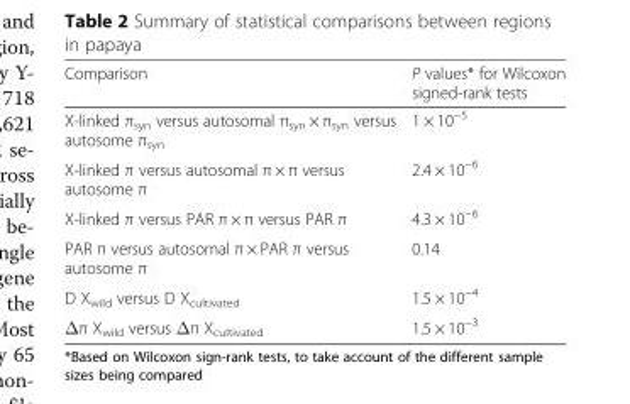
<table><thead><tr><td>Comparison</td><td>P values* for Wilcoxon signed-rank tests</td></tr></thead><tbody><tr><td>X-linked π<sub>syn</sub> versus autosomal π<sub>syn</sub> × π<sub>syn</sub> versus autosome π<sub>syn</sub></td><td>1 × 10<sup>−5</sup></td></tr><tr><td>X-linked π versus autosomal π × π versus autosome π</td><td>2.4 × 10<sup>−6</sup></td></tr><tr><td>X-linked π versus PAR π × π versus PAR π</td><td>4.3 × 10<sup>−6</sup></td></tr><tr><td>PAR π versus autosomal π × PAR π versus autosome π</td><td>0.14</td></tr><tr><td>D X<sub>wild</sub> versus D X<sub>cultivated</sub></td><td>1.5 × 10<sup>−4</sup></td></tr><tr><td>Δπ X<sub>wild</sub> versus Δπ X<sub>cultivated</sub></td><td>1.5 × 10<sup>−3</sup></td></tr></tbody></table>